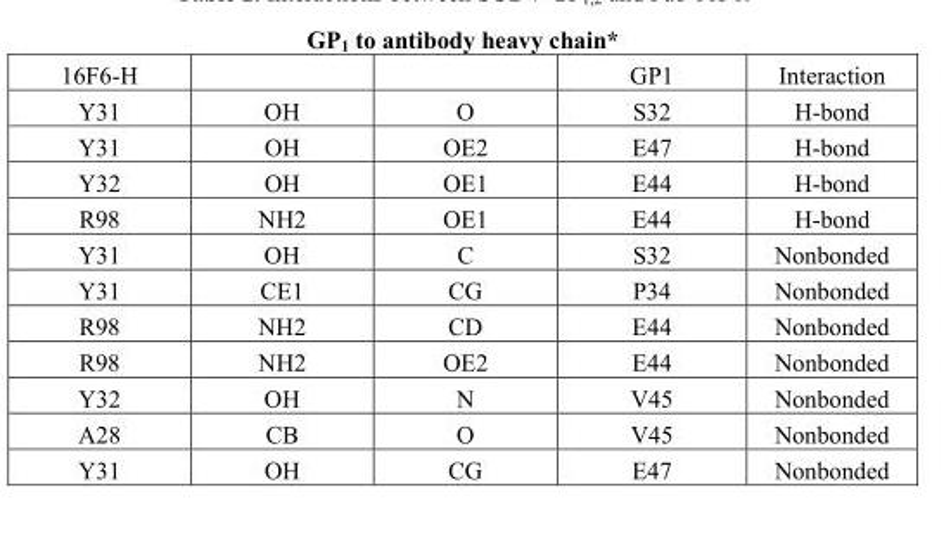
<table><tbody><tr><td>16F6-H</td><td></td><td></td><td>GP1</td><td>Interaction</td></tr><tr><td>Y31</td><td>OH</td><td>O</td><td>S32</td><td>H-bond</td></tr><tr><td>Y31</td><td>OH</td><td>OE2</td><td>E47</td><td>H-bond</td></tr><tr><td>Y32</td><td>OH</td><td>OE1</td><td>E44</td><td>H-bond</td></tr><tr><td>R98</td><td>NH2</td><td>OE1</td><td>E44</td><td>H-bond</td></tr><tr><td>Y31</td><td>OH</td><td>C</td><td>S32</td><td>Nonbonded</td></tr><tr><td>Y31</td><td>CE1</td><td>CG</td><td>P34</td><td>Nonbonded</td></tr><tr><td>R98</td><td>NH2</td><td>CD</td><td>E44</td><td>Nonbonded</td></tr><tr><td>R98</td><td>NH2</td><td>OE2</td><td>E44</td><td>Nonbonded</td></tr><tr><td>Y32</td><td>OH</td><td>N</td><td>V45</td><td>Nonbonded</td></tr><tr><td>A28</td><td>CB</td><td>O</td><td>V45</td><td>Nonbonded</td></tr><tr><td>Y31</td><td>OH</td><td>CG</td><td>E47</td><td>Nonbonded</td></tr></tbody></table>